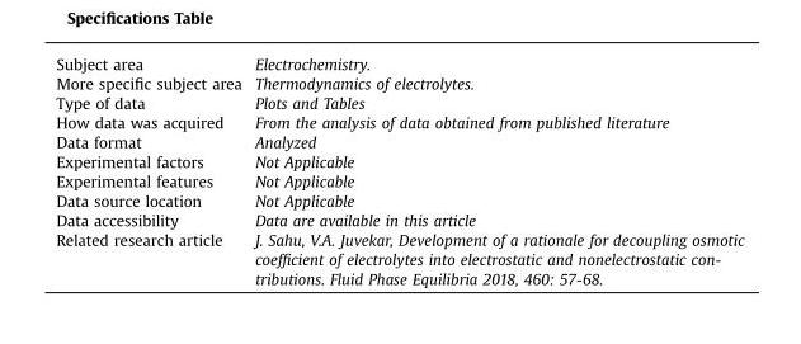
<table><tbody><tr><td>Subject area</td><td>Electrochemistry.</td></tr><tr><td>More specific subject area</td><td>Thermodynamics of electrolytes.</td></tr><tr><td>Type of data</td><td>Plots and Tables</td></tr><tr><td>How data was acquired</td><td>From the analysis of data obtained from published literature</td></tr><tr><td>Data format</td><td>Analyzed</td></tr><tr><td>Experimental factors</td><td>Not Applicable</td></tr><tr><td>Experimental features</td><td>Not Applicable</td></tr><tr><td>Data source location</td><td>Not Applicable</td></tr><tr><td>Data accessibility</td><td>Data are available in this article</td></tr><tr><td>Related research article</td><td>J. Sahu, V.A. Juvekar, Development of a rationale for decoupling osmotic coefficient of electrolytes into electrostatic and nonelectrostatic con- tributions. Fluid Phase Equilibria 2018, 460: 57-68.</td></tr></tbody></table>